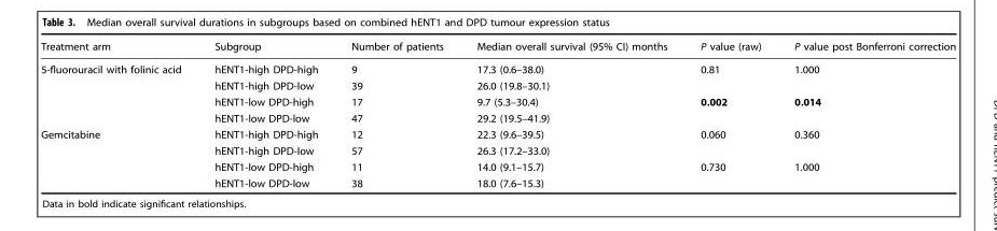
<table><thead><tr><td>Treatment arm</td><td>Subgroup</td><td>Number of patients</td><td>Median overall survival (95% CI) months</td><td>P value (raw)</td><td>P value post Bonferroni correction</td></tr></thead><tbody><tr><td rowspan="4">5-fluorouracil with folinic acid</td><td>hENT1-high DPD-high</td><td>9</td><td>17.3 (0.6–38.0)</td><td>0.81</td><td>1.000</td></tr><tr><td>hENT1-high DPD-low</td><td>39</td><td>26.0 (19.8–30.1)</td><td></td><td></td></tr><tr><td>hENT1-low DPD-high</td><td>17</td><td>9.7 (5.3–30.4)</td><td>0.002</td><td>0.014</td></tr><tr><td>hENT1-low DPD-low</td><td>47</td><td>29.2 (19.5–41.9)</td><td></td><td></td></tr><tr><td rowspan="4">Gemcitabine</td><td>hENT1-high DPD-high</td><td>12</td><td>22.3 (9.6–39.5)</td><td>0.060</td><td>0.360</td></tr><tr><td>hENT1-high DPD-low</td><td>57</td><td>26.3 (17.2–33.0)</td><td></td><td></td></tr><tr><td>hENT1-low DPD-high</td><td>11</td><td>14.0 (9.1–15.7)</td><td>0.730</td><td>1.000</td></tr><tr><td>hENT1-low DPD-low</td><td>38</td><td>18.0 (7.6–15.3)</td><td></td><td></td></tr></tbody></table>